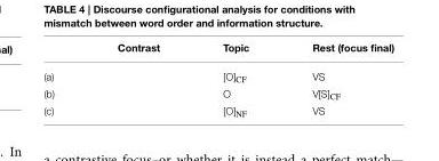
<table><thead><tr><td></td><td>Contrast</td><td>Topic</td><td>Rest (focus final)</td></tr></thead><tbody><tr><td>(a)</td><td></td><td>[O]<sub>CF</sub></td><td>VS</td></tr><tr><td>(b)</td><td></td><td>O</td><td>V[S]<sub>CF</sub></td></tr><tr><td>(c)</td><td></td><td>[O]<sub>NF</sub></td><td>VS</td></tr></tbody></table>